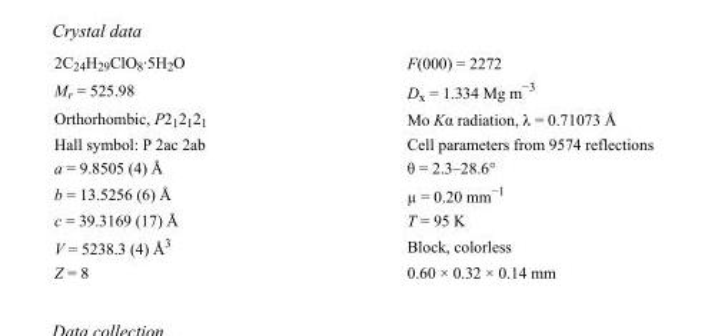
<table><tbody><tr><td>2C<sub>24</sub>H<sub>29</sub>ClO<sub>8</sub>·5H<sub>2</sub>O</td><td>F(000) = 2272</td></tr><tr><td>M<sub>r</sub> = 525.98</td><td>D<sub>x</sub> = 1.334 Mg m<sup>−3</sup></td></tr><tr><td>Orthorhombic, P2<sub>1</sub>2<sub>1</sub>2<sub>1</sub></td><td>Mo Kα radiation, λ = 0.71073 Å</td></tr><tr><td>Hall symbol: P 2ac 2ab</td><td>Cell parameters from 9574 reflections</td></tr><tr><td>a = 9.8505 (4) Å</td><td>θ = 2.3–28.6°</td></tr><tr><td>b = 13.5256 (6) Å</td><td>µ = 0.20 mm<sup>−1</sup></td></tr><tr><td>c = 39.3169 (17) Å</td><td>T = 95 K</td></tr><tr><td>V = 5238.3 (4) Å<sup>3</sup></td><td>Block, colorless</td></tr><tr><td>Z = 8</td><td>0.60 × 0.32 × 0.14 mm</td></tr></tbody></table>